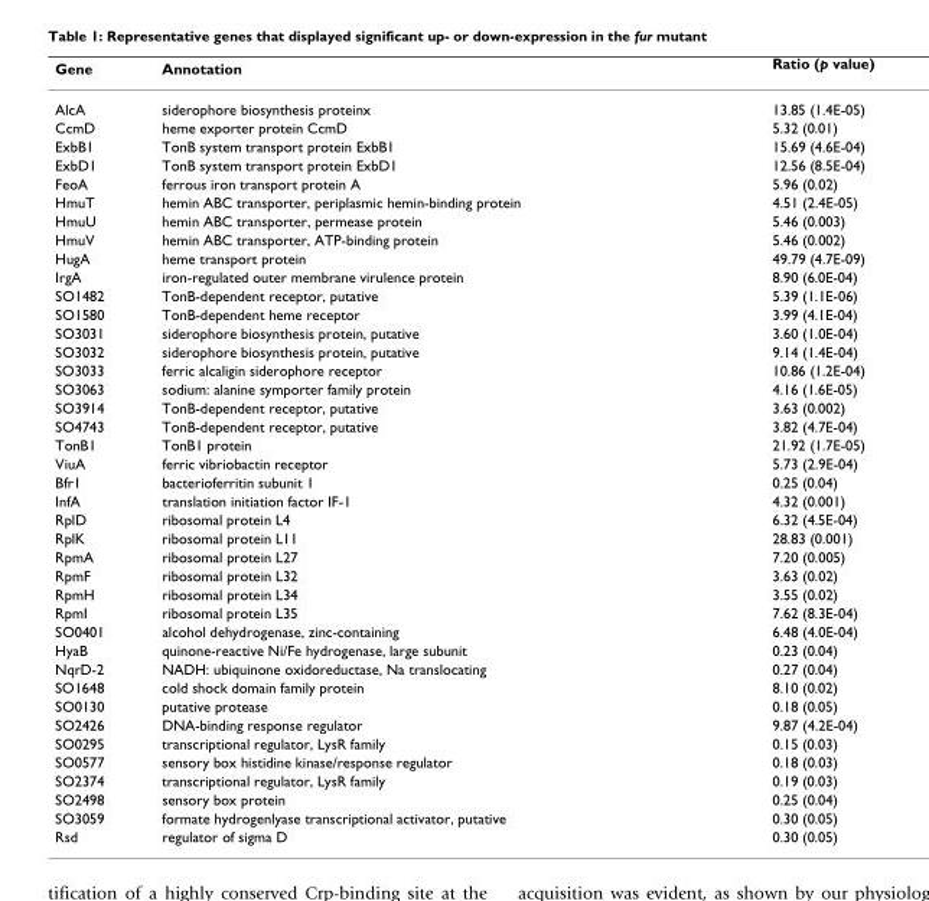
<table><thead><tr><td>Gene</td><td>Annotation</td><td>Ratio (p value)</td></tr></thead><tbody><tr><td>AlcA</td><td>siderophore biosynthesis proteinx</td><td>13.85 (1.4E-05)</td></tr><tr><td>CcmD</td><td>heme exporter protein CcmD</td><td>5.32 (0.01)</td></tr><tr><td>ExbB1</td><td>TonB system transport protein ExbB1</td><td>15.69 (4.6E-04)</td></tr><tr><td>ExbD1</td><td>TonB system transport protein ExbD1</td><td>12.56 (8.5E-04)</td></tr><tr><td>FeoA</td><td>ferrous iron transport protein A</td><td>5.96 (0.02)</td></tr><tr><td>HmuT</td><td>hemin ABC transporter, periplasmic hemin-binding protein</td><td>4.51 (2.4E-05)</td></tr><tr><td>HmuU</td><td>hemin ABC transporter, permease protein</td><td>5.46 (0.003)</td></tr><tr><td>HmuV</td><td>hemin ABC transporter, ATP-binding protein</td><td>5.46 (0.002)</td></tr><tr><td>HugA</td><td>heme transport protein</td><td>49.79 (4.7E-09)</td></tr><tr><td>IrgA</td><td>iron-regulated outer membrane virulence protein</td><td>8.90 (6.0E-04)</td></tr><tr><td>SO1482</td><td>TonB-dependent receptor, putative</td><td>5.39 (1.1E-06)</td></tr><tr><td>SO1580</td><td>TonB-dependent heme receptor</td><td>3.99 (4.1E-04)</td></tr><tr><td>SO3031</td><td>siderophore biosynthesis protein, putative</td><td>3.60 (1.0E-04)</td></tr><tr><td>SO3032</td><td>siderophore biosynthesis protein, putative</td><td>9.14 (1.4E-04)</td></tr><tr><td>SO3033</td><td>ferric alcaligin siderophore receptor</td><td>10.86 (1.2E-04)</td></tr><tr><td>SO3063</td><td>sodium: alanine symporter family protein</td><td>4.16 (1.6E-05)</td></tr><tr><td>SO3914</td><td>TonB-dependent receptor, putative</td><td>3.63 (0.002)</td></tr><tr><td>SO4743</td><td>TonB-dependent receptor, putative</td><td>3.82 (4.7E-04)</td></tr><tr><td>TonB1</td><td>TonB1 protein</td><td>21.92 (1.7E-05)</td></tr><tr><td>ViuA</td><td>ferric vibriobactin receptor</td><td>5.73 (2.9E-04)</td></tr><tr><td>Bfr1</td><td>bacterioferritin subunit 1</td><td>0.25 (0.04)</td></tr><tr><td>InfA</td><td>translation initiation factor IF-1</td><td>4.32 (0.001)</td></tr><tr><td>RplD</td><td>ribosomal protein L4</td><td>6.32 (4.5E-04)</td></tr><tr><td>RplK</td><td>ribosomal protein L11</td><td>28.83 (0.001)</td></tr><tr><td>RpmA</td><td>ribosomal protein L27</td><td>7.20 (0.005)</td></tr><tr><td>RpmF</td><td>ribosomal protein L32</td><td>3.63 (0.02)</td></tr><tr><td>RpmH</td><td>ribosomal protein L34</td><td>3.55 (0.02)</td></tr><tr><td>RpmI</td><td>ribosomal protein L35</td><td>7.62 (8.3E-04)</td></tr><tr><td>SO0401</td><td>alcohol dehydrogenase, zinc-containing</td><td>6.48 (4.0E-04)</td></tr><tr><td>HyaB</td><td>quinone-reactive Ni/Fe hydrogenase, large subunit</td><td>0.23 (0.04)</td></tr><tr><td>NqrD-2</td><td>NADH: ubiquinone oxidoreductase, Na translocating</td><td>0.27 (0.04)</td></tr><tr><td>SO1648</td><td>cold shock domain family protein</td><td>8.10 (0.02)</td></tr><tr><td>SO0130</td><td>putative protease</td><td>0.18 (0.05)</td></tr><tr><td>SO2426</td><td>DNA-binding response regulator</td><td>9.87 (4.2E-04)</td></tr><tr><td>SO0295</td><td>transcriptional regulator, LysR family</td><td>0.15 (0.03)</td></tr><tr><td>SO0577</td><td>sensory box histidine kinase/response regulator</td><td>0.18 (0.03)</td></tr><tr><td>SO2374</td><td>transcriptional regulator, LysR family</td><td>0.19 (0.03)</td></tr><tr><td>SO2498</td><td>sensory box protein</td><td>0.25 (0.04)</td></tr><tr><td>SO3059</td><td>formate hydrogenlyase transcriptional activator, putative</td><td>0.30 (0.05)</td></tr><tr><td>Rsd</td><td>regulator of sigma D</td><td>0.30 (0.05)</td></tr></tbody></table>